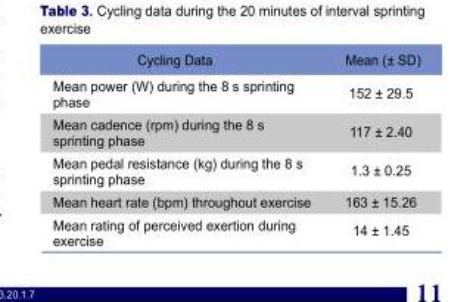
<table><thead><tr><td>Cycling Data</td><td>Mean (± SD)</td></tr></thead><tbody><tr><td>Mean power (W) during the 8 s sprinting phase</td><td>152 ± 29.5</td></tr><tr><td>Mean cadence (rpm) during the 8 s sprinting phase</td><td>117 ± 2.40</td></tr><tr><td>Mean pedal resistance (kg) during the 8 s sprinting phase</td><td>1.3 ± 0.25</td></tr><tr><td>Mean heart rate (bpm) throughout exercise</td><td>163 ± 15.26</td></tr><tr><td>Mean rating of perceived exertion during exercise</td><td>14 ± 1.45</td></tr></tbody></table>